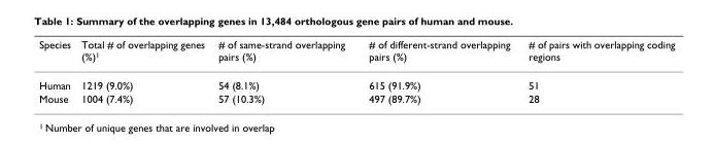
<table><thead><tr><td>Species</td><td>Total # of overlapping genes (%)<sup>1</sup></td><td># of same-strand overlapping pairs (%)</td><td># of different-strand overlapping pairs (%)</td><td># of pairs with overlapping coding regions</td></tr></thead><tbody><tr><td>Human</td><td>1219 (9.0%)</td><td>54 (8.1%)</td><td>615 (91.9%)</td><td>51</td></tr><tr><td>Mouse</td><td>1004 (7.4%)</td><td>57 (10.3%)</td><td>497 (89.7%)</td><td>28</td></tr></tbody></table>